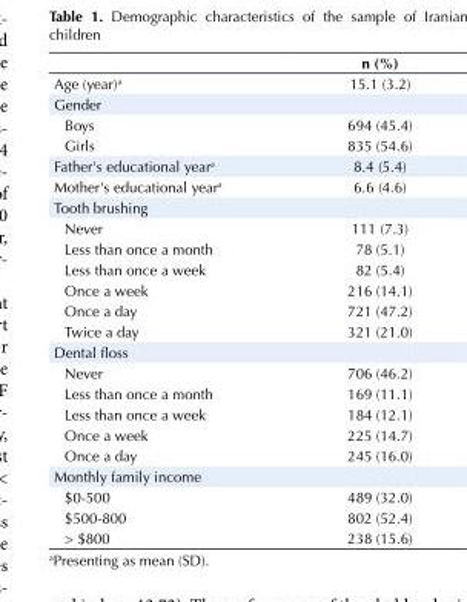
<table><thead><tr><td></td><td>n (%)</td></tr></thead><tbody><tr><td>Age (year)<sup>a</sup></td><td>15.1 (3.2)</td></tr><tr><td colspan="2">Gender</td></tr><tr><td>Boys</td><td>694 (45.4)</td></tr><tr><td>Girls</td><td>835 (54.6)</td></tr><tr><td>Father&#x27;s educational year<sup>a</sup></td><td>8.4 (5.4)</td></tr><tr><td>Mother&#x27;s educational year<sup>a</sup></td><td>6.6 (4.6)</td></tr><tr><td colspan="2">Tooth brushing</td></tr><tr><td>Never</td><td>111 (7.3)</td></tr><tr><td>Less than once a month</td><td>78 (5.1)</td></tr><tr><td>Less than once a week</td><td>82 (5.4)</td></tr><tr><td>Once a week</td><td>216 (14.1)</td></tr><tr><td>Once a day</td><td>721 (47.2)</td></tr><tr><td>Twice a day</td><td>321 (21.0)</td></tr><tr><td colspan="2">Dental floss</td></tr><tr><td>Never</td><td>706 (46.2)</td></tr><tr><td>Less than once a month</td><td>169 (11.1)</td></tr><tr><td>Less than once a week</td><td>184 (12.1)</td></tr><tr><td>Once a week</td><td>225 (14.7)</td></tr><tr><td>Once a day</td><td>245 (16.0)</td></tr><tr><td colspan="2">Monthly family income</td></tr><tr><td>$0-500</td><td>489 (32.0)</td></tr><tr><td>$500-800</td><td>802 (52.4)</td></tr><tr><td>&gt; $800</td><td>238 (15.6)</td></tr></tbody></table>